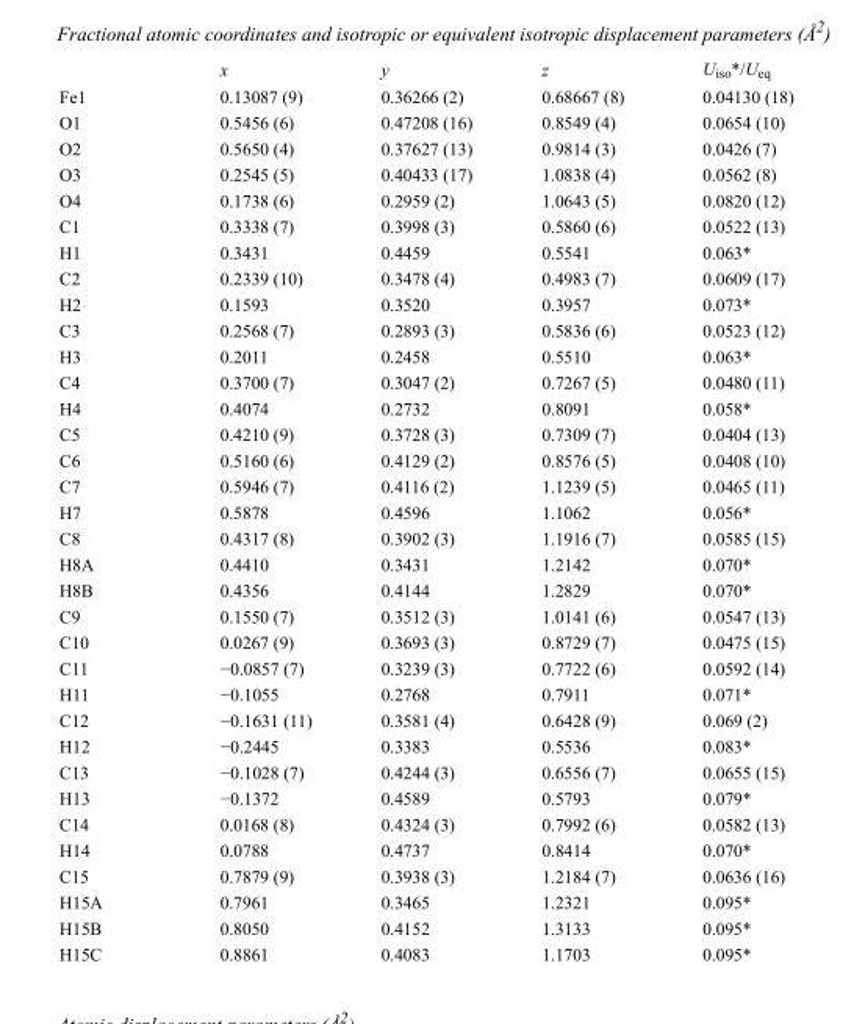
<table><thead><tr><td></td><td>x</td><td>y</td><td>z</td><td>U<sub>iso</sub>*/U<sub>eq</sub></td></tr></thead><tbody><tr><td>Fe1</td><td>0.13087 (9)</td><td>0.36266 (2)</td><td>0.68667 (8)</td><td>0.04130 (18)</td></tr><tr><td>O1</td><td>0.5456 (6)</td><td>0.47208 (16)</td><td>0.8549 (4)</td><td>0.0654 (10)</td></tr><tr><td>O2</td><td>0.5650 (4)</td><td>0.37627 (13)</td><td>0.9814 (3)</td><td>0.0426 (7)</td></tr><tr><td>O3</td><td>0.2545 (5)</td><td>0.40433 (17)</td><td>1.0838 (4)</td><td>0.0562 (8)</td></tr><tr><td>O4</td><td>0.1738 (6)</td><td>0.2959 (2)</td><td>1.0643 (5)</td><td>0.0820 (12)</td></tr><tr><td>C1</td><td>0.3338 (7)</td><td>0.3998 (3)</td><td>0.5860 (6)</td><td>0.0522 (13)</td></tr><tr><td>H1</td><td>0.3431</td><td>0.4459</td><td>0.5541</td><td>0.063*</td></tr><tr><td>C2</td><td>0.2339 (10)</td><td>0.3478 (4)</td><td>0.4983 (7)</td><td>0.0609 (17)</td></tr><tr><td>H2</td><td>0.1593</td><td>0.3520</td><td>0.3957</td><td>0.073*</td></tr><tr><td>C3</td><td>0.2568 (7)</td><td>0.2893 (3)</td><td>0.5836 (6)</td><td>0.0523 (12)</td></tr><tr><td>H3</td><td>0.2011</td><td>0.2458</td><td>0.5510</td><td>0.063*</td></tr><tr><td>C4</td><td>0.3700 (7)</td><td>0.3047 (2)</td><td>0.7267 (5)</td><td>0.0480 (11)</td></tr><tr><td>H4</td><td>0.4074</td><td>0.2732</td><td>0.8091</td><td>0.058*</td></tr><tr><td>C5</td><td>0.4210 (9)</td><td>0.3728 (3)</td><td>0.7309 (7)</td><td>0.0404 (13)</td></tr><tr><td>C6</td><td>0.5160 (6)</td><td>0.4129 (2)</td><td>0.8576 (5)</td><td>0.0408 (10)</td></tr><tr><td>C7</td><td>0.5946 (7)</td><td>0.4116 (2)</td><td>1.1239 (5)</td><td>0.0465 (11)</td></tr><tr><td>H7</td><td>0.5878</td><td>0.4596</td><td>1.1062</td><td>0.056*</td></tr><tr><td>C8</td><td>0.4317 (8)</td><td>0.3902 (3)</td><td>1.1916 (7)</td><td>0.0585 (15)</td></tr><tr><td>H8A</td><td>0.4410</td><td>0.3431</td><td>1.2142</td><td>0.070*</td></tr><tr><td>H8B</td><td>0.4356</td><td>0.4144</td><td>1.2829</td><td>0.070*</td></tr><tr><td>C9</td><td>0.1550 (7)</td><td>0.3512 (3)</td><td>1.0141 (6)</td><td>0.0547 (13)</td></tr><tr><td>C10</td><td>0.0267 (9)</td><td>0.3693 (3)</td><td>0.8729 (7)</td><td>0.0475 (15)</td></tr><tr><td>C11</td><td>−0.0857 (7)</td><td>0.3239 (3)</td><td>0.7722 (6)</td><td>0.0592 (14)</td></tr><tr><td>H11</td><td>−0.1055</td><td>0.2768</td><td>0.7911</td><td>0.071*</td></tr><tr><td>C12</td><td>−0.1631 (11)</td><td>0.3581 (4)</td><td>0.6428 (9)</td><td>0.069 (2)</td></tr><tr><td>H12</td><td>−0.2445</td><td>0.3383</td><td>0.5536</td><td>0.083*</td></tr><tr><td>C13</td><td>−0.1028 (7)</td><td>0.4244 (3)</td><td>0.6556 (7)</td><td>0.0655 (15)</td></tr><tr><td>H13</td><td>−0.1372</td><td>0.4589</td><td>0.5793</td><td>0.079*</td></tr><tr><td>C14</td><td>0.0168 (8)</td><td>0.4324 (3)</td><td>0.7992 (6)</td><td>0.0582 (13)</td></tr><tr><td>H14</td><td>0.0788</td><td>0.4737</td><td>0.8414</td><td>0.070*</td></tr><tr><td>C15</td><td>0.7879 (9)</td><td>0.3938 (3)</td><td>1.2184 (7)</td><td>0.0636 (16)</td></tr><tr><td>H15A</td><td>0.7961</td><td>0.3465</td><td>1.2321</td><td>0.095*</td></tr><tr><td>H15B</td><td>0.8050</td><td>0.4152</td><td>1.3133</td><td>0.095*</td></tr><tr><td>H15C</td><td>0.8861</td><td>0.4083</td><td>1.1703</td><td>0.095*</td></tr></tbody></table>